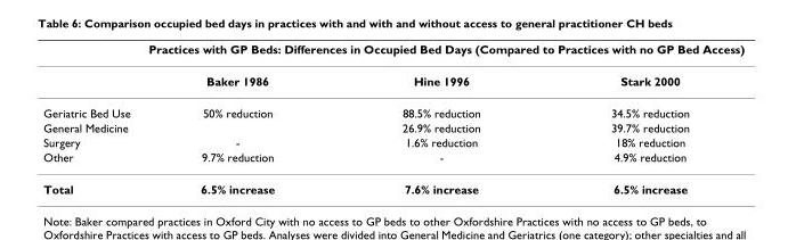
<table><thead><tr><td rowspan="2"></td><td colspan="3">Practices with GP Beds: Differences in Occupied Bed Days (Compared to Practices with no GP Bed Access)</td></tr><tr><td>Baker 1986</td><td>Hine 1996</td><td>Stark 2000</td></tr></thead><tbody><tr><td>Geriatric Bed Use</td><td>50% reduction</td><td>88.5% reduction</td><td>34.5% reduction</td></tr><tr><td>General Medicine</td><td></td><td>26.9% reduction</td><td>39.7% reduction</td></tr><tr><td>Surgery</td><td>-</td><td>1.6% reduction</td><td>18% reduction</td></tr><tr><td>Other</td><td>9.7% reduction</td><td>-</td><td>4.9% reduction</td></tr><tr><td>Total</td><td>6.5% increase</td><td>7.6% increase</td><td>6.5% increase</td></tr></tbody></table>